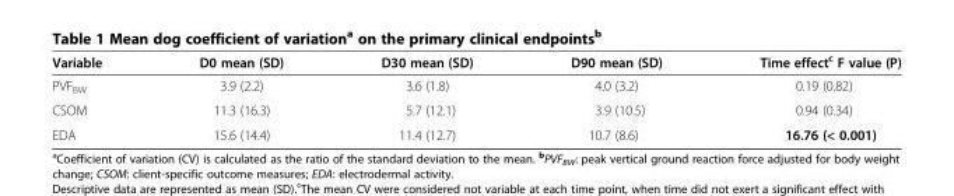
<table><thead><tr><td>Variable</td><td>D0 mean (SD)</td><td>D30 mean (SD)</td><td>D90 mean (SD)</td><td>Time effect<sup>c</sup> F value (P)</td></tr></thead><tbody><tr><td>PVF<sub>BW</sub></td><td>3.9 (2.2)</td><td>3.6 (1.8)</td><td>4.0 (3.2)</td><td>0.19 (0.82)</td></tr><tr><td>CSOM</td><td>11.3 (16.3)</td><td>5.7 (12.1)</td><td>3.9 (10.5)</td><td>0.94 (0.34)</td></tr><tr><td>EDA</td><td>15.6 (14.4)</td><td>11.4 (12.7)</td><td>10.7 (8.6)</td><td>16.76 (&lt; 0.001)</td></tr></tbody></table>